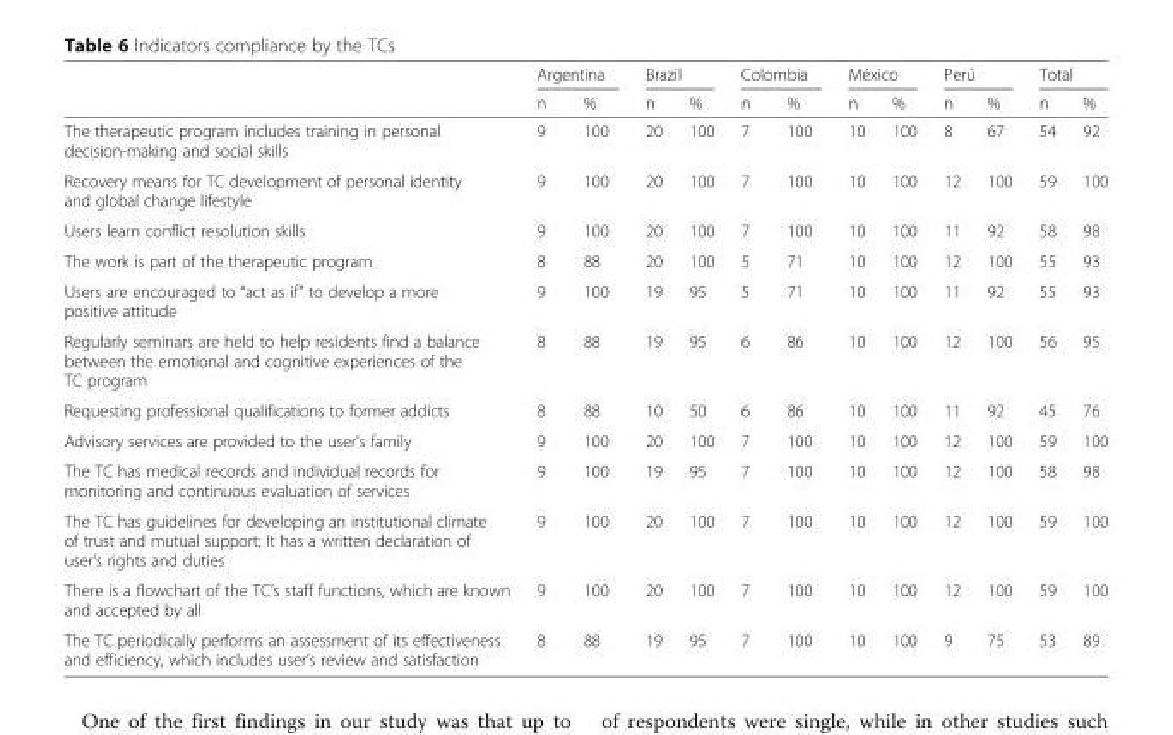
<table><thead><tr><td rowspan="2"></td><td colspan="2">Argentina</td><td colspan="2">Brazil</td><td colspan="2">Colombia</td><td colspan="2">México</td><td colspan="2">Perú</td><td colspan="2">Total</td></tr><tr><td>n</td><td>%</td><td>n</td><td>%</td><td>n</td><td>%</td><td>n</td><td>%</td><td>n</td><td>%</td><td>n</td><td>%</td></tr></thead><tbody><tr><td>The therapeutic program includes training in personal decision-making and social skills</td><td>9</td><td>100</td><td>20</td><td>100</td><td>7</td><td>100</td><td>10</td><td>100</td><td>8</td><td>67</td><td>54</td><td>92</td></tr><tr><td>Recovery means for TC development of personal identity and global change lifestyle</td><td>9</td><td>100</td><td>20</td><td>100</td><td>7</td><td>100</td><td>10</td><td>100</td><td>12</td><td>100</td><td>59</td><td>100</td></tr><tr><td>Users learn conflict resolution skills</td><td>9</td><td>100</td><td>20</td><td>100</td><td>7</td><td>100</td><td>10</td><td>100</td><td>11</td><td>92</td><td>58</td><td>98</td></tr><tr><td>The work is part of the therapeutic program</td><td>8</td><td>88</td><td>20</td><td>100</td><td>5</td><td>71</td><td>10</td><td>100</td><td>12</td><td>100</td><td>55</td><td>93</td></tr><tr><td>Users are encouraged to “act as if” to develop a more positive attitude</td><td>9</td><td>100</td><td>19</td><td>95</td><td>5</td><td>71</td><td>10</td><td>100</td><td>11</td><td>92</td><td>55</td><td>93</td></tr><tr><td>Regularly seminars are held to help residents find a balance between the emotional and cognitive experiences of the TC program</td><td>8</td><td>88</td><td>19</td><td>95</td><td>6</td><td>86</td><td>10</td><td>100</td><td>12</td><td>100</td><td>56</td><td>95</td></tr><tr><td>Requesting professional qualifications to former addicts</td><td>8</td><td>88</td><td>10</td><td>50</td><td>6</td><td>86</td><td>10</td><td>100</td><td>11</td><td>92</td><td>45</td><td>76</td></tr><tr><td>Advisory services are provided to the user’s family</td><td>9</td><td>100</td><td>20</td><td>100</td><td>7</td><td>100</td><td>10</td><td>100</td><td>12</td><td>100</td><td>59</td><td>100</td></tr><tr><td>The TC has medical records and individual records for monitoring and continuous evaluation of services</td><td>9</td><td>100</td><td>19</td><td>95</td><td>7</td><td>100</td><td>10</td><td>100</td><td>12</td><td>100</td><td>58</td><td>98</td></tr><tr><td>The TC has guidelines for developing an institutional climate of trust and mutual support; It has a written declaration of user’s rights and duties</td><td>9</td><td>100</td><td>20</td><td>100</td><td>7</td><td>100</td><td>10</td><td>100</td><td>12</td><td>100</td><td>59</td><td>100</td></tr><tr><td>There is a flowchart of the TC’s staff functions, which are known and accepted by all</td><td>9</td><td>100</td><td>20</td><td>100</td><td>7</td><td>100</td><td>10</td><td>100</td><td>12</td><td>100</td><td>59</td><td>100</td></tr><tr><td>The TC periodically performs an assessment of its effectiveness and efficiency, which includes user’s review and satisfaction</td><td>8</td><td>88</td><td>19</td><td>95</td><td>7</td><td>100</td><td>10</td><td>100</td><td>9</td><td>75</td><td>53</td><td>89</td></tr></tbody></table>